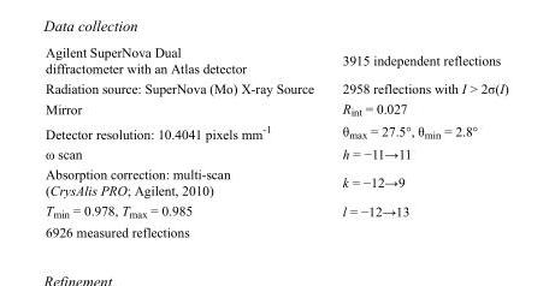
<table><tbody><tr><td>Agilent SuperNova Dual diffractometer with an Atlas detector</td><td>3915 independent reflections</td></tr><tr><td>Radiation source: SuperNova (Mo) X-ray Source</td><td>2958 reflections with I &gt; 2σ(I)</td></tr><tr><td>Mirror</td><td>R<sub>int</sub> = 0.027</td></tr><tr><td>Detector resolution: 10.4041 pixels mm<sup>-1</sup></td><td>θ<sub>max</sub> = 27.5°, θ<sub>min</sub> = 2.8°</td></tr><tr><td>ω scan</td><td>h = −11→11</td></tr><tr><td>Absorption correction: multi-scan (CrysAlis PRO; Agilent, 2010)</td><td>k = −12→9</td></tr><tr><td>T<sub>min</sub> = 0.978, T<sub>max</sub> = 0.985</td><td>l = −12→13</td></tr><tr><td>6926 measured reflections</td><td></td></tr></tbody></table>